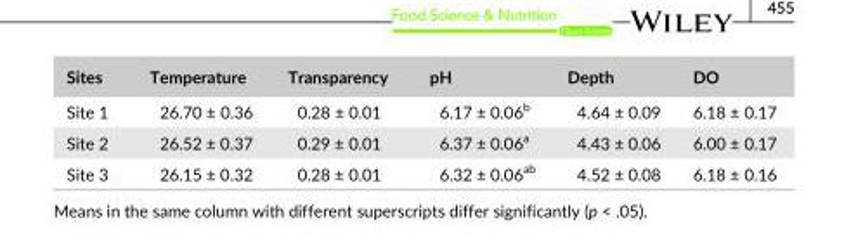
<table><thead><tr><td>Sites</td><td>Temperature</td><td>Transparency</td><td>pH</td><td>Depth</td><td>DO</td></tr></thead><tbody><tr><td>Site 1</td><td>26.70 ± 0.36</td><td>0.28 ± 0.01</td><td>6.17 ± 0.06<sup>b</sup></td><td>4.64 ± 0.09</td><td>6.18 ± 0.17</td></tr><tr><td>Site 2</td><td>26.52 ± 0.37</td><td>0.29 ± 0.01</td><td>6.37 ± 0.06<sup>a</sup></td><td>4.43 ± 0.06</td><td>6.00 ± 0.17</td></tr><tr><td>Site 3</td><td>26.15 ± 0.32</td><td>0.28 ± 0.01</td><td>6.32 ± 0.06<sup>ab</sup></td><td>4.52 ± 0.08</td><td>6.18 ± 0.16</td></tr></tbody></table>